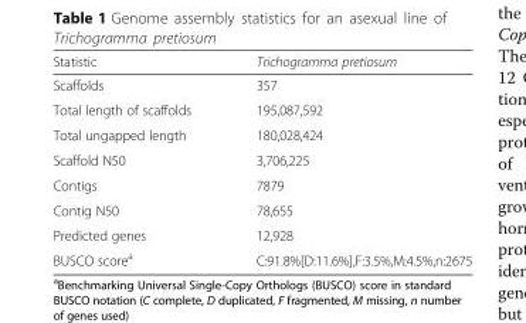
<table><thead><tr><td>Statistic</td><td>Trichogramma pretiosum</td></tr></thead><tbody><tr><td>Scaffolds</td><td>357</td></tr><tr><td>Total length of scaffolds</td><td>195,087,592</td></tr><tr><td>Total ungapped length</td><td>180,028,424</td></tr><tr><td>Scaffold N50</td><td>3,706,225</td></tr><tr><td>Contigs</td><td>7879</td></tr><tr><td>Contig N50</td><td>78,655</td></tr><tr><td>Predicted genes</td><td>12,928</td></tr><tr><td>BUSCO score<sup>a</sup></td><td>C:91.8%[D:11.6%],F:3.5%,M:4.5%,n:2675</td></tr></tbody></table>